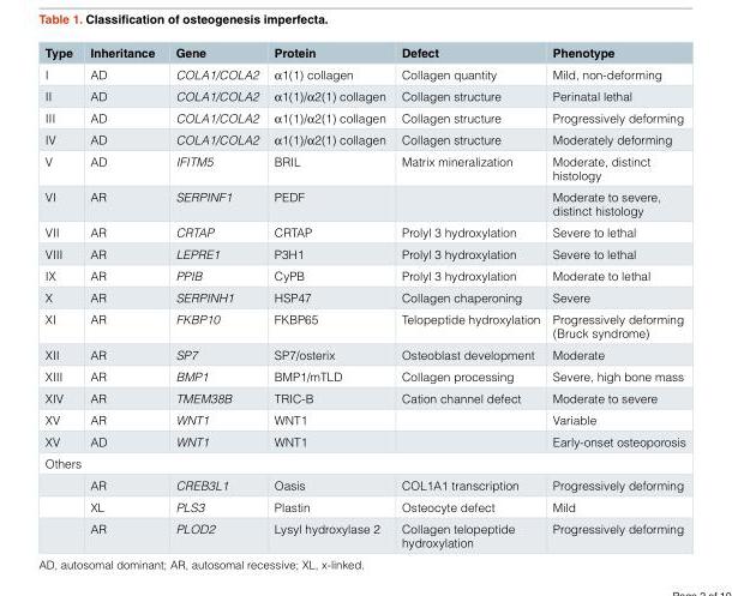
<table><thead><tr><td>Type</td><td>Inheritance</td><td>Gene</td><td>Protein</td><td>Defect</td><td>Phenotype</td></tr></thead><tbody><tr><td>I</td><td>AD</td><td>COLA1/COLA2</td><td>α1(1) collagen</td><td>Collagen quantity</td><td>Mild, non-deforming</td></tr><tr><td>II</td><td>AD</td><td>COLA1/COLA2</td><td>α1(1)/α2(1) collagen</td><td>Collagen structure</td><td>Perinatal lethal</td></tr><tr><td>III</td><td>AD</td><td>COLA1/COLA2</td><td>α1(1)/α2(1) collagen</td><td>Collagen structure</td><td>Progressively deforming</td></tr><tr><td>IV</td><td>AD</td><td>COLA1/COLA2</td><td>α1(1)/α2(1) collagen</td><td>Collagen structure</td><td>Moderately deforming</td></tr><tr><td>V</td><td>AD</td><td>IFITM5</td><td>BRIL</td><td>Matrix mineralization</td><td>Moderate, distinct histology</td></tr><tr><td>VI</td><td>AR</td><td>SERPINF1</td><td>PEDF</td><td></td><td>Moderate to severe, distinct histology</td></tr><tr><td>VII</td><td>AR</td><td>CRTAP</td><td>CRTAP</td><td>Prolyl 3 hydroxylation</td><td>Severe to lethal</td></tr><tr><td>VIII</td><td>AR</td><td>LEPRE1</td><td>P3H1</td><td>Prolyl 3 hydroxylation</td><td>Severe to lethal</td></tr><tr><td>IX</td><td>AR</td><td>PPIB</td><td>CyPB</td><td>Prolyl 3 hydroxylation</td><td>Moderate to lethal</td></tr><tr><td>X</td><td>AR</td><td>SERPINH1</td><td>HSP47</td><td>Collagen chaperoning</td><td>Severe</td></tr><tr><td>XI</td><td>AR</td><td>FKBP10</td><td>FKBP65</td><td>Telopeptide hydroxylation</td><td>Progressively deforming (Bruck syndrome)</td></tr><tr><td>XII</td><td>AR</td><td>SP7</td><td>SP7/osterix</td><td>Osteoblast development</td><td>Moderate</td></tr><tr><td>XIII</td><td>AR</td><td>BMP1</td><td>BMP1/mTLD</td><td>Collagen processing</td><td>Severe, high bone mass</td></tr><tr><td>XIV</td><td>AR</td><td>TMEM38B</td><td>TRIC-B</td><td>Cation channel defect</td><td>Moderate to severe</td></tr><tr><td>XV</td><td>AR</td><td>WNT1</td><td>WNT1</td><td></td><td>Variable</td></tr><tr><td>XV</td><td>AD</td><td>WNT1</td><td>WNT1</td><td></td><td>Early-onset osteoporosis</td></tr><tr><td colspan="6">Others</td></tr><tr><td></td><td>AR</td><td>CREB3L1</td><td>Oasis</td><td>COL1A1 transcription</td><td>Progressively deforming</td></tr><tr><td></td><td>XL</td><td>PLS3</td><td>Plastin</td><td>Osteocyte defect</td><td>Mild</td></tr><tr><td></td><td>AR</td><td>PLOD2</td><td>Lysyl hydroxylase 2</td><td>Collagen telopeptide hydroxylation</td><td>Progressively deforming</td></tr></tbody></table>